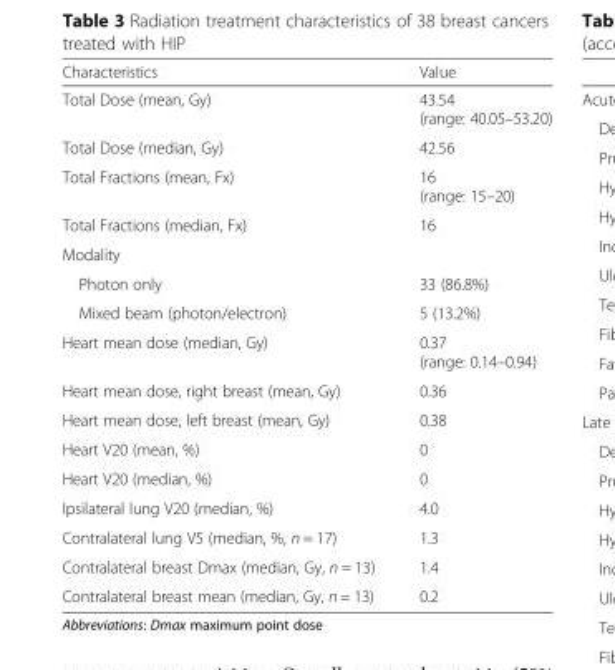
<table><thead><tr><td>Characteristics</td><td>Value</td></tr></thead><tbody><tr><td>Total Dose (mean, Gy)</td><td>43.54 (range: 40.05–53.20)</td></tr><tr><td>Total Dose (median, Gy)</td><td>42.56</td></tr><tr><td>Total Fractions (mean, Fx)</td><td>16 (range: 15–20)</td></tr><tr><td>Total Fractions (median, Fx)</td><td>16</td></tr><tr><td colspan="2">Modality</td></tr><tr><td>Photon only</td><td>33 (86.8%)</td></tr><tr><td>Mixed beam (photon/electron)</td><td>5 (13.2%)</td></tr><tr><td>Heart mean dose (median, Gy)</td><td>0.37 (range: 0.14–0.94)</td></tr><tr><td>Heart mean dose, right breast (mean, Gy)</td><td>0.36</td></tr><tr><td>Heart mean dose, left breast (mean, Gy)</td><td>0.38</td></tr><tr><td>Heart V20 (mean, %)</td><td>0</td></tr><tr><td>Heart V20 (median, %)</td><td>0</td></tr><tr><td>Ipsilateral lung V20 (median, %)</td><td>4.0</td></tr><tr><td>Contralateral lung V5 (median, %, n = 17)</td><td>1.3</td></tr><tr><td>Contralateral breast Dmax (median, Gy, n = 13)</td><td>1.4</td></tr><tr><td>Contralateral breast mean (median, Gy, n = 13)</td><td>0.2</td></tr></tbody></table>